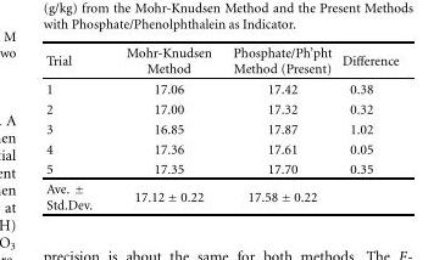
<table><thead><tr><td>Trial</td><td>Mohr-Knudsen Method</td><td>Phosphate/Ph’pht Method (Present)</td><td>Difference</td></tr></thead><tbody><tr><td>1</td><td>17.06</td><td>17.42</td><td>0.38</td></tr><tr><td>2</td><td>17.00</td><td>17.32</td><td>0.32</td></tr><tr><td>3</td><td>16.85</td><td>17.87</td><td>1.02</td></tr><tr><td>4</td><td>17.36</td><td>17.61</td><td>0.05</td></tr><tr><td>5</td><td>17.35</td><td>17.70</td><td>0.35</td></tr><tr><td>Ave. ± Std.Dev.</td><td>17.12 ± 0.22</td><td>17.58 ± 0.22</td><td></td></tr></tbody></table>